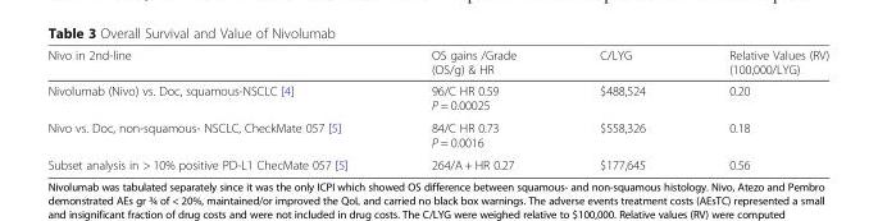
<table><thead><tr><td>Nivo in 2nd-line</td><td>OS gains /Grade (OS/g) &amp; HR</td><td>C/LYG</td><td>Relative Values (RV) (100,000/LYG)</td></tr></thead><tbody><tr><td>Nivolumab (Nivo) vs. Doc, squamous-NSCLC [4]</td><td>96/C HR 0.59 P = 0.00025</td><td>$488,524</td><td>0.20</td></tr><tr><td>Nivo vs. Doc, non-squamous- NSCLC, CheckMate 057 [5]</td><td>84/C HR 0.73 P = 0.0016</td><td>$558,326</td><td>0.18</td></tr><tr><td>Subset analysis in &gt; 10% positive PD-L1 ChecMate 057 [5]</td><td>264/A + HR 0.27</td><td>$177,645</td><td>0.56</td></tr></tbody></table>